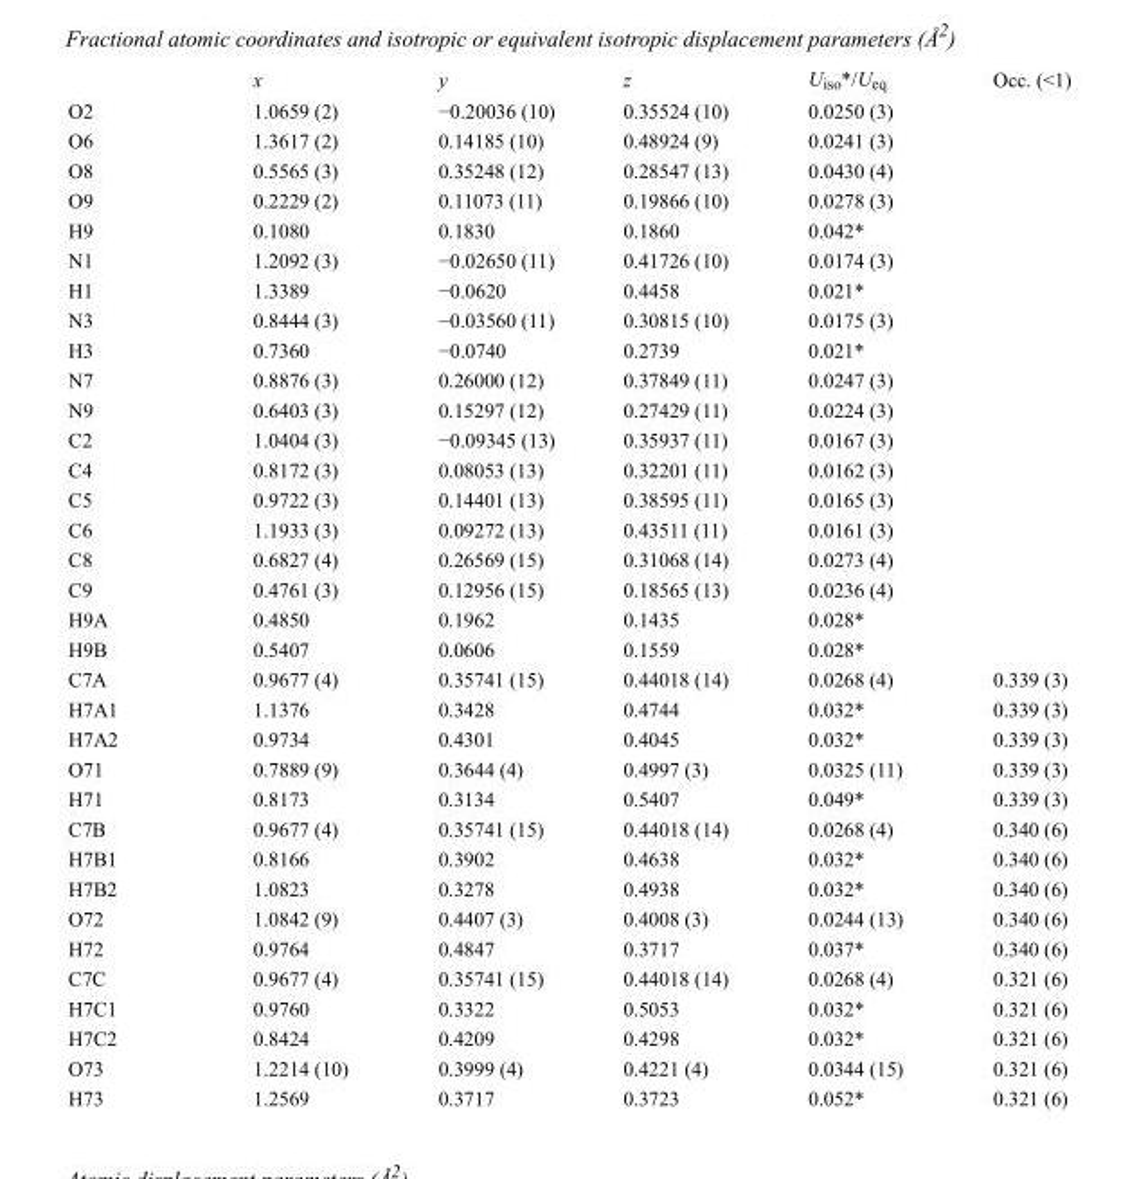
<table><thead><tr><td></td><td>x</td><td>y</td><td>z</td><td>U<sub>iso</sub>*/U<sub>eq</sub></td><td>Occ. (&lt;1)</td></tr></thead><tbody><tr><td>O2</td><td>1.0659 (2)</td><td>−0.20036 (10)</td><td>0.35524 (10)</td><td>0.0250 (3)</td><td></td></tr><tr><td>O6</td><td>1.3617 (2)</td><td>0.14185 (10)</td><td>0.48924 (9)</td><td>0.0241 (3)</td><td></td></tr><tr><td>O8</td><td>0.5565 (3)</td><td>0.35248 (12)</td><td>0.28547 (13)</td><td>0.0430 (4)</td><td></td></tr><tr><td>O9</td><td>0.2229 (2)</td><td>0.11073 (11)</td><td>0.19866 (10)</td><td>0.0278 (3)</td><td></td></tr><tr><td>H9</td><td>0.1080</td><td>0.1830</td><td>0.1860</td><td>0.042*</td><td></td></tr><tr><td>N1</td><td>1.2092 (3)</td><td>−0.02650 (11)</td><td>0.41726 (10)</td><td>0.0174 (3)</td><td></td></tr><tr><td>H1</td><td>1.3389</td><td>−0.0620</td><td>0.4458</td><td>0.021*</td><td></td></tr><tr><td>N3</td><td>0.8444 (3)</td><td>−0.03560 (11)</td><td>0.30815 (10)</td><td>0.0175 (3)</td><td></td></tr><tr><td>H3</td><td>0.7360</td><td>−0.0740</td><td>0.2739</td><td>0.021*</td><td></td></tr><tr><td>N7</td><td>0.8876 (3)</td><td>0.26000 (12)</td><td>0.37849 (11)</td><td>0.0247 (3)</td><td></td></tr><tr><td>N9</td><td>0.6403 (3)</td><td>0.15297 (12)</td><td>0.27429 (11)</td><td>0.0224 (3)</td><td></td></tr><tr><td>C2</td><td>1.0404 (3)</td><td>−0.09345 (13)</td><td>0.35937 (11)</td><td>0.0167 (3)</td><td></td></tr><tr><td>C4</td><td>0.8172 (3)</td><td>0.08053 (13)</td><td>0.32201 (11)</td><td>0.0162 (3)</td><td></td></tr><tr><td>C5</td><td>0.9722 (3)</td><td>0.14401 (13)</td><td>0.38595 (11)</td><td>0.0165 (3)</td><td></td></tr><tr><td>C6</td><td>1.1933 (3)</td><td>0.09272 (13)</td><td>0.43511 (11)</td><td>0.0161 (3)</td><td></td></tr><tr><td>C8</td><td>0.6827 (4)</td><td>0.26569 (15)</td><td>0.31068 (14)</td><td>0.0273 (4)</td><td></td></tr><tr><td>C9</td><td>0.4761 (3)</td><td>0.12956 (15)</td><td>0.18565 (13)</td><td>0.0236 (4)</td><td></td></tr><tr><td>H9A</td><td>0.4850</td><td>0.1962</td><td>0.1435</td><td>0.028*</td><td></td></tr><tr><td>H9B</td><td>0.5407</td><td>0.0606</td><td>0.1559</td><td>0.028*</td><td></td></tr><tr><td>C7A</td><td>0.9677 (4)</td><td>0.35741 (15)</td><td>0.44018 (14)</td><td>0.0268 (4)</td><td>0.339 (3)</td></tr><tr><td>H7A1</td><td>1.1376</td><td>0.3428</td><td>0.4744</td><td>0.032*</td><td>0.339 (3)</td></tr><tr><td>H7A2</td><td>0.9734</td><td>0.4301</td><td>0.4045</td><td>0.032*</td><td>0.339 (3)</td></tr><tr><td>O71</td><td>0.7889 (9)</td><td>0.3644 (4)</td><td>0.4997 (3)</td><td>0.0325 (11)</td><td>0.339 (3)</td></tr><tr><td>H71</td><td>0.8173</td><td>0.3134</td><td>0.5407</td><td>0.049*</td><td>0.339 (3)</td></tr><tr><td>C7B</td><td>0.9677 (4)</td><td>0.35741 (15)</td><td>0.44018 (14)</td><td>0.0268 (4)</td><td>0.340 (6)</td></tr><tr><td>H7B1</td><td>0.8166</td><td>0.3902</td><td>0.4638</td><td>0.032*</td><td>0.340 (6)</td></tr><tr><td>H7B2</td><td>1.0823</td><td>0.3278</td><td>0.4938</td><td>0.032*</td><td>0.340 (6)</td></tr><tr><td>O72</td><td>1.0842 (9)</td><td>0.4407 (3)</td><td>0.4008 (3)</td><td>0.0244 (13)</td><td>0.340 (6)</td></tr><tr><td>H72</td><td>0.9764</td><td>0.4847</td><td>0.3717</td><td>0.037*</td><td>0.340 (6)</td></tr><tr><td>C7C</td><td>0.9677 (4)</td><td>0.35741 (15)</td><td>0.44018 (14)</td><td>0.0268 (4)</td><td>0.321 (6)</td></tr><tr><td>H7C1</td><td>0.9760</td><td>0.3322</td><td>0.5053</td><td>0.032*</td><td>0.321 (6)</td></tr><tr><td>H7C2</td><td>0.8424</td><td>0.4209</td><td>0.4298</td><td>0.032*</td><td>0.321 (6)</td></tr><tr><td>O73</td><td>1.2214 (10)</td><td>0.3999 (4)</td><td>0.4221 (4)</td><td>0.0344 (15)</td><td>0.321 (6)</td></tr><tr><td>H73</td><td>1.2569</td><td>0.3717</td><td>0.3723</td><td>0.052*</td><td>0.321 (6)</td></tr></tbody></table>